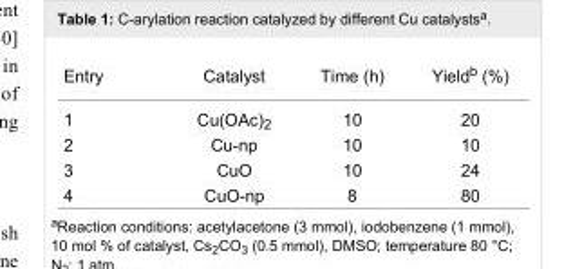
<table><tbody><tr><td>Entry</td><td>Catalyst</td><td>Time (h)</td><td>Yield<sup>b</sup> (%)</td></tr><tr><td>1</td><td>Cu(OAc)<sub>2</sub></td><td>10</td><td>20</td></tr><tr><td>2</td><td>Cu-np</td><td>10</td><td>10</td></tr><tr><td>3</td><td>CuO</td><td>10</td><td>24</td></tr><tr><td>4</td><td>CuO-np</td><td>8</td><td>80</td></tr></tbody></table>